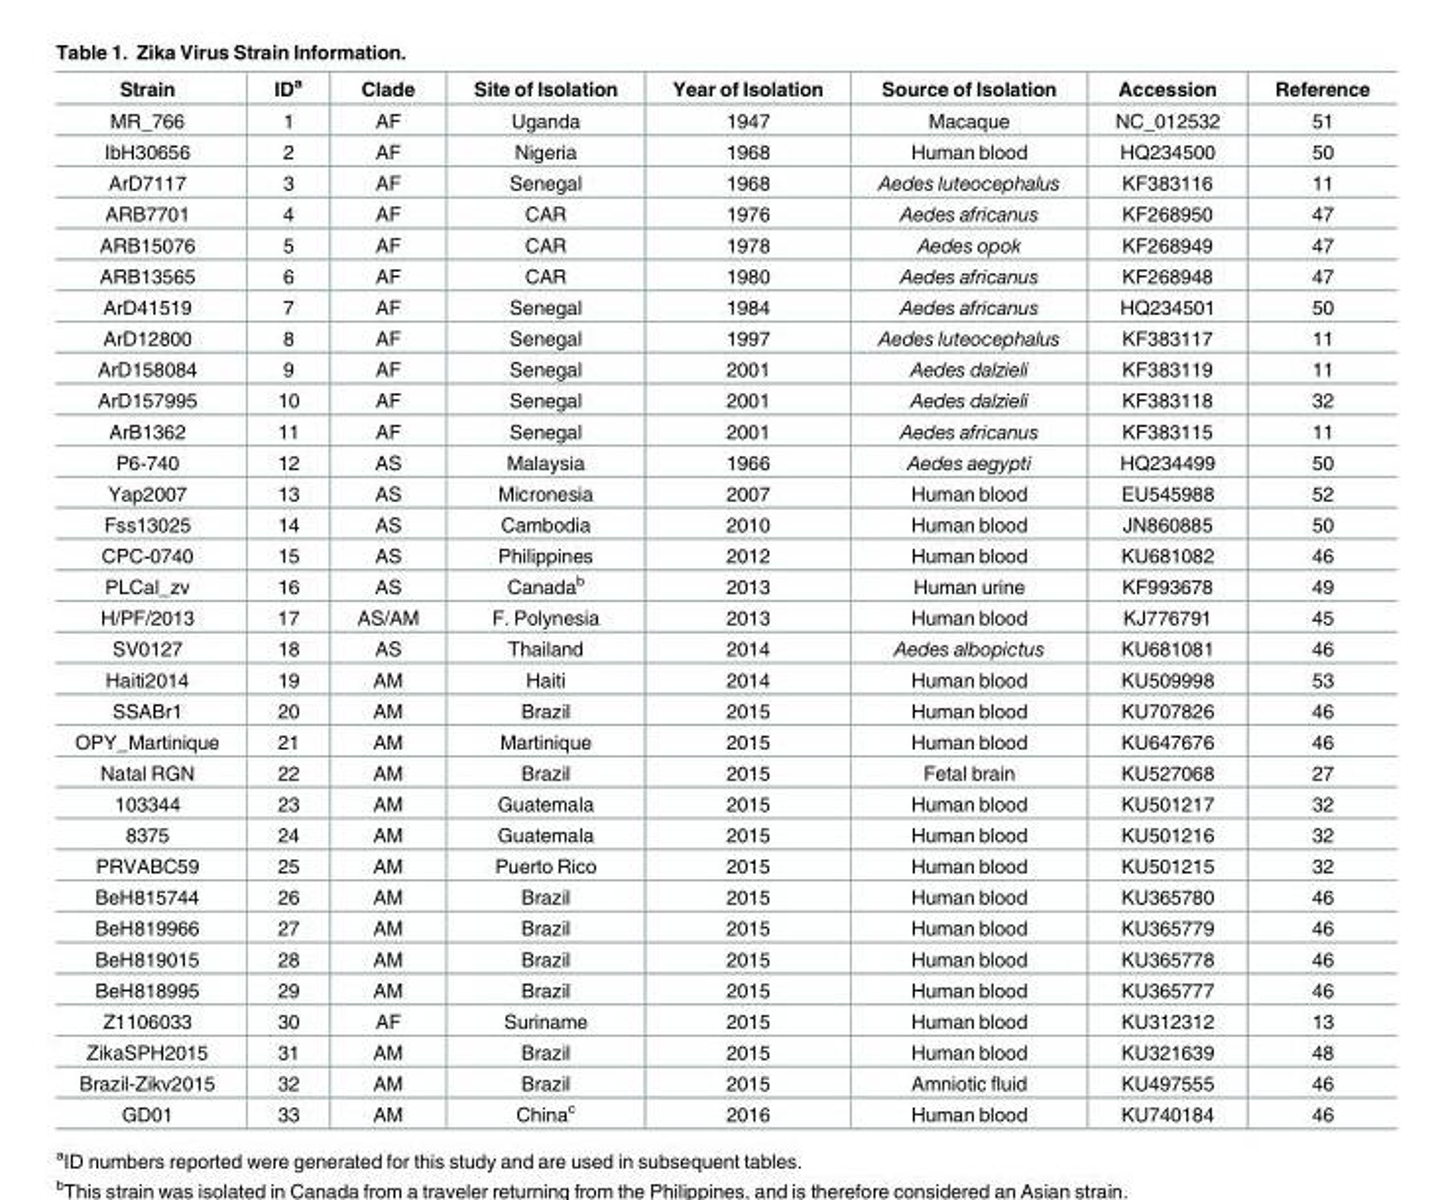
<table><thead><tr><td>Strain</td><td>ID<sup>a</sup></td><td>Clade</td><td>Site of Isolation</td><td>Year of Isolation</td><td>Source of Isolation</td><td>Accession</td><td>Reference</td></tr></thead><tbody><tr><td>MR_766</td><td>1</td><td>AF</td><td>Uganda</td><td>1947</td><td>Macaque</td><td>NC_012532</td><td>51</td></tr><tr><td>IbH30656</td><td>2</td><td>AF</td><td>Nigeria</td><td>1968</td><td>Human blood</td><td>HQ234500</td><td>50</td></tr><tr><td>ArD7117</td><td>3</td><td>AF</td><td>Senegal</td><td>1968</td><td>Aedes luteocephalus</td><td>KF383116</td><td>11</td></tr><tr><td>ARB7701</td><td>4</td><td>AF</td><td>CAR</td><td>1976</td><td>Aedes africanus</td><td>KF268950</td><td>47</td></tr><tr><td>ARB15076</td><td>5</td><td>AF</td><td>CAR</td><td>1978</td><td>Aedes opok</td><td>KF268949</td><td>47</td></tr><tr><td>ARB13565</td><td>6</td><td>AF</td><td>CAR</td><td>1980</td><td>Aedes africanus</td><td>KF268948</td><td>47</td></tr><tr><td>ArD41519</td><td>7</td><td>AF</td><td>Senegal</td><td>1984</td><td>Aedes africanus</td><td>HQ234501</td><td>50</td></tr><tr><td>ArD12800</td><td>8</td><td>AF</td><td>Senegal</td><td>1997</td><td>Aedes luteocephalus</td><td>KF383117</td><td>11</td></tr><tr><td>ArD158084</td><td>9</td><td>AF</td><td>Senegal</td><td>2001</td><td>Aedes dalzieli</td><td>KF383119</td><td>11</td></tr><tr><td>ArD157995</td><td>10</td><td>AF</td><td>Senegal</td><td>2001</td><td>Aedes dalzieli</td><td>KF383118</td><td>32</td></tr><tr><td>ArB1362</td><td>11</td><td>AF</td><td>Senegal</td><td>2001</td><td>Aedes africanus</td><td>KF383115</td><td>11</td></tr><tr><td>P6-740</td><td>12</td><td>AS</td><td>Malaysia</td><td>1966</td><td>Aedes aegypti</td><td>HQ234499</td><td>50</td></tr><tr><td>Yap2007</td><td>13</td><td>AS</td><td>Micronesia</td><td>2007</td><td>Human blood</td><td>EU545988</td><td>52</td></tr><tr><td>Fss13025</td><td>14</td><td>AS</td><td>Cambodia</td><td>2010</td><td>Human blood</td><td>JN860885</td><td>50</td></tr><tr><td>CPC-0740</td><td>15</td><td>AS</td><td>Philippines</td><td>2012</td><td>Human blood</td><td>KU681082</td><td>46</td></tr><tr><td>PLCal_zv</td><td>16</td><td>AS</td><td>Canada<sup>b</sup></td><td>2013</td><td>Human urine</td><td>KF993678</td><td>49</td></tr><tr><td>H/PF/2013</td><td>17</td><td>AS/AM</td><td>F. Polynesia</td><td>2013</td><td>Human blood</td><td>KJ776791</td><td>45</td></tr><tr><td>SV0127</td><td>18</td><td>AS</td><td>Thailand</td><td>2014</td><td>Aedes albopictus</td><td>KU681081</td><td>46</td></tr><tr><td>Haiti2014</td><td>19</td><td>AM</td><td>Haiti</td><td>2014</td><td>Human blood</td><td>KU509998</td><td>53</td></tr><tr><td>SSABr1</td><td>20</td><td>AM</td><td>Brazil</td><td>2015</td><td>Human blood</td><td>KU707826</td><td>46</td></tr><tr><td>OPY_Martinique</td><td>21</td><td>AM</td><td>Martinique</td><td>2015</td><td>Human blood</td><td>KU647676</td><td>46</td></tr><tr><td>Natal RGN</td><td>22</td><td>AM</td><td>Brazil</td><td>2015</td><td>Fetal brain</td><td>KU527068</td><td>27</td></tr><tr><td>103344</td><td>23</td><td>AM</td><td>Guatemala</td><td>2015</td><td>Human blood</td><td>KU501217</td><td>32</td></tr><tr><td>8375</td><td>24</td><td>AM</td><td>Guatemala</td><td>2015</td><td>Human blood</td><td>KU501216</td><td>32</td></tr><tr><td>PRVABC59</td><td>25</td><td>AM</td><td>Puerto Rico</td><td>2015</td><td>Human blood</td><td>KU501215</td><td>32</td></tr><tr><td>BeH815744</td><td>26</td><td>AM</td><td>Brazil</td><td>2015</td><td>Human blood</td><td>KU365780</td><td>46</td></tr><tr><td>BeH819966</td><td>27</td><td>AM</td><td>Brazil</td><td>2015</td><td>Human blood</td><td>KU365779</td><td>46</td></tr><tr><td>BeH819015</td><td>28</td><td>AM</td><td>Brazil</td><td>2015</td><td>Human blood</td><td>KU365778</td><td>46</td></tr><tr><td>BeH818995</td><td>29</td><td>AM</td><td>Brazil</td><td>2015</td><td>Human blood</td><td>KU365777</td><td>46</td></tr><tr><td>Z1106033</td><td>30</td><td>AF</td><td>Suriname</td><td>2015</td><td>Human blood</td><td>KU312312</td><td>13</td></tr><tr><td>ZikaSPH2015</td><td>31</td><td>AM</td><td>Brazil</td><td>2015</td><td>Human blood</td><td>KU321639</td><td>48</td></tr><tr><td>Brazil-Zikv2015</td><td>32</td><td>AM</td><td>Brazil</td><td>2015</td><td>Amniotic fluid</td><td>KU497555</td><td>46</td></tr><tr><td>GD01</td><td>33</td><td>AM</td><td>China<sup>c</sup></td><td>2016</td><td>Human blood</td><td>KU740184</td><td>46</td></tr></tbody></table>